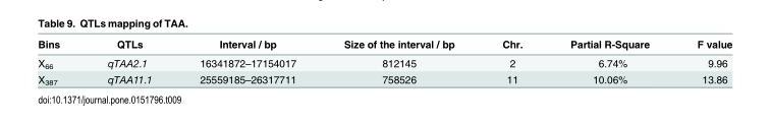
<table><thead><tr><td>Bins</td><td>QTLs</td><td>Interval / bp</td><td>Size of the interval / bp</td><td>Chr.</td><td>Partial R-Square</td><td>F value</td></tr></thead><tbody><tr><td>X<sub>66</sub></td><td>qTAA2.1</td><td>16341872–17154017</td><td>812145</td><td>2</td><td>6.74%</td><td>9.96</td></tr><tr><td>X<sub>387</sub></td><td>qTAA11.1</td><td>25559185–26317711</td><td>758526</td><td>11</td><td>10.06%</td><td>13.86</td></tr></tbody></table>